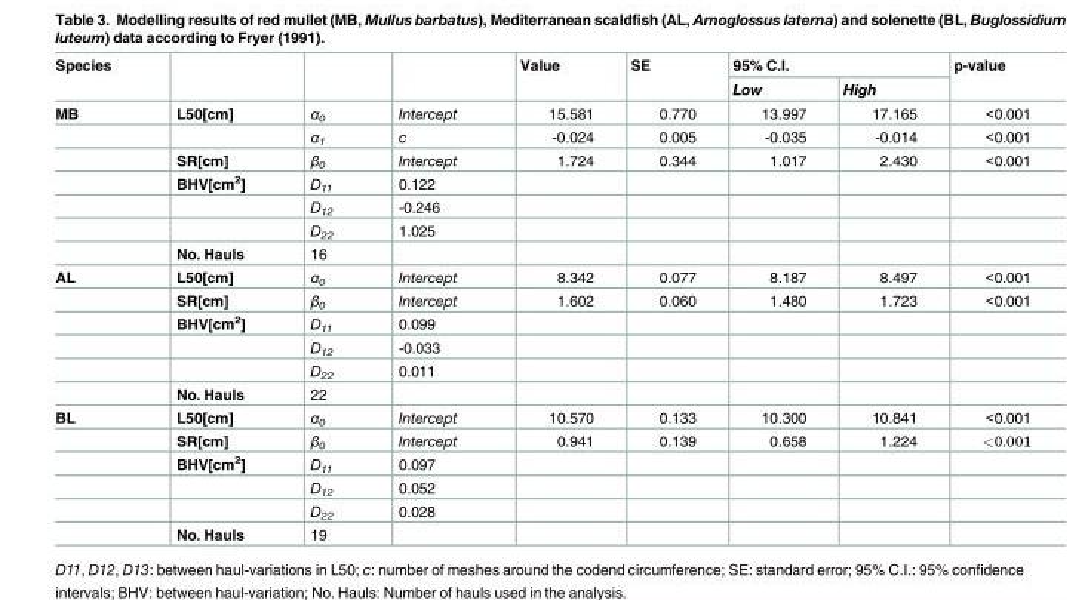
<table><thead><tr><td rowspan="2">Species</td><td rowspan="2"></td><td rowspan="2"></td><td rowspan="2"></td><td rowspan="2">Value</td><td rowspan="2">SE</td><td colspan="2">95% C.I.</td><td rowspan="2">p-value</td></tr><tr><td>Low</td><td>High</td></tr></thead><tbody><tr><td rowspan="7">MB</td><td>L50[cm]</td><td>α<sub>0</sub></td><td>Intercept</td><td>15.581</td><td>0.770</td><td>13.997</td><td>17.165</td><td>&lt;0.001</td></tr><tr><td></td><td>α<sub>1</sub></td><td>c</td><td>-0.024</td><td>0.005</td><td>-0.035</td><td>-0.014</td><td>&lt;0.001</td></tr><tr><td>SR[cm]</td><td>β<sub>0</sub></td><td>Intercept</td><td>1.724</td><td>0.344</td><td>1.017</td><td>2.430</td><td>&lt;0.001</td></tr><tr><td>BHV[cm<sup>2</sup>]</td><td>D<sub>11</sub></td><td>0.122</td><td></td><td></td><td></td><td></td><td></td></tr><tr><td></td><td>D<sub>12</sub></td><td>-0.246</td><td></td><td></td><td></td><td></td><td></td></tr><tr><td></td><td>D<sub>22</sub></td><td>1.025</td><td></td><td></td><td></td><td></td><td></td></tr><tr><td>No. Hauls</td><td>16</td><td></td><td></td><td></td><td></td><td></td><td></td></tr><tr><td rowspan="6">AL</td><td>L50[cm]</td><td>α<sub>0</sub></td><td>Intercept</td><td>8.342</td><td>0.077</td><td>8.187</td><td>8.497</td><td>&lt;0.001</td></tr><tr><td>SR[cm]</td><td>β<sub>0</sub></td><td>Intercept</td><td>1.602</td><td>0.060</td><td>1.480</td><td>1.723</td><td>&lt;0.001</td></tr><tr><td>BHV[cm<sup>2</sup>]</td><td>D<sub>11</sub></td><td>0.099</td><td></td><td></td><td></td><td></td><td></td></tr><tr><td></td><td>D<sub>12</sub></td><td>-0.033</td><td></td><td></td><td></td><td></td><td></td></tr><tr><td></td><td>D<sub>22</sub></td><td>0.011</td><td></td><td></td><td></td><td></td><td></td></tr><tr><td>No. Hauls</td><td>22</td><td></td><td></td><td></td><td></td><td></td><td></td></tr><tr><td rowspan="6">BL</td><td>L50[cm]</td><td>α<sub>0</sub></td><td>Intercept</td><td>10.570</td><td>0.133</td><td>10.300</td><td>10.841</td><td>&lt;0.001</td></tr><tr><td>SR[cm]</td><td>β<sub>0</sub></td><td>Intercept</td><td>0.941</td><td>0.139</td><td>0.658</td><td>1.224</td><td>&lt;0.001</td></tr><tr><td>BHV[cm<sup>2</sup>]</td><td>D<sub>11</sub></td><td>0.097</td><td></td><td></td><td></td><td></td><td></td></tr><tr><td></td><td>D<sub>12</sub></td><td>0.052</td><td></td><td></td><td></td><td></td><td></td></tr><tr><td></td><td>D<sub>22</sub></td><td>0.028</td><td></td><td></td><td></td><td></td><td></td></tr><tr><td>No. Hauls</td><td>19</td><td></td><td></td><td></td><td></td><td></td><td></td></tr></tbody></table>